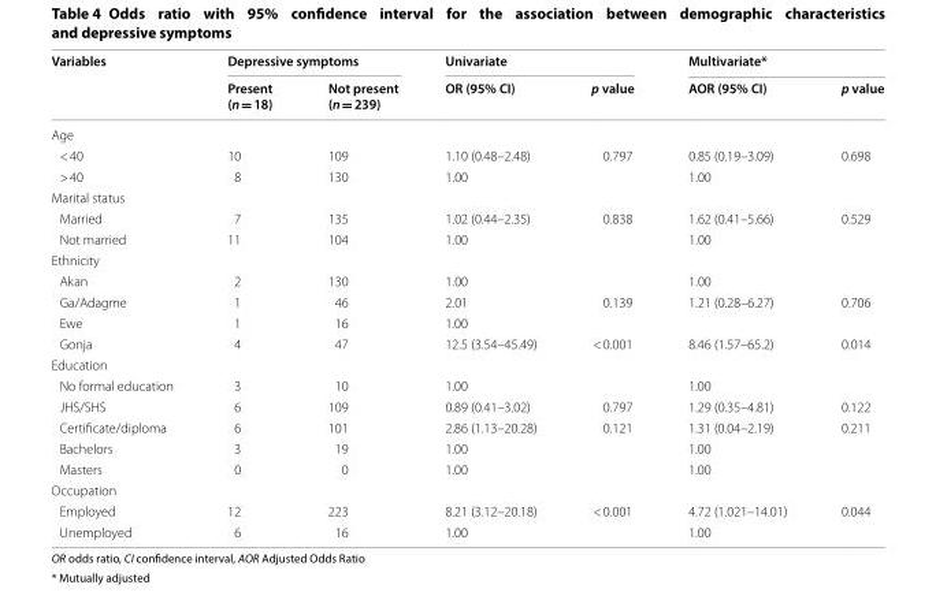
<table><thead><tr><td rowspan="2">Variables</td><td colspan="2">Depressive symptoms</td><td colspan="2">Univariate</td><td colspan="2">Multivariate*</td></tr><tr><td>Present (n = 18)</td><td>Not present (n = 239)</td><td>OR (95% CI)</td><td>p value</td><td>AOR (95% CI)</td><td>p value</td></tr></thead><tbody><tr><td colspan="7">Age</td></tr><tr><td>&lt; 40</td><td>10</td><td>109</td><td>1.10 (0.48–2.48)</td><td>0.797</td><td>0.85 (0.19–3.09)</td><td>0.698</td></tr><tr><td>&gt; 40</td><td>8</td><td>130</td><td>1.00</td><td></td><td>1.00</td><td></td></tr><tr><td colspan="7">Marital status</td></tr><tr><td>Married</td><td>7</td><td>135</td><td>1.02 (0.44–2.35)</td><td>0.838</td><td>1.62 (0.41–5.66)</td><td>0.529</td></tr><tr><td>Not married</td><td>11</td><td>104</td><td>1.00</td><td></td><td>1.00</td><td></td></tr><tr><td colspan="7">Ethnicity</td></tr><tr><td>Akan</td><td>2</td><td>130</td><td>1.00</td><td></td><td>1.00</td><td></td></tr><tr><td>Ga/Adagme</td><td>1</td><td>46</td><td>2.01</td><td>0.139</td><td>1.21 (0.28–6.27)</td><td>0.706</td></tr><tr><td>Ewe</td><td>1</td><td>16</td><td>1.00</td><td></td><td></td><td></td></tr><tr><td>Gonja</td><td>4</td><td>47</td><td>12.5 (3.54–45.49)</td><td>&lt; 0.001</td><td>8.46 (1.57–65.2)</td><td>0.014</td></tr><tr><td colspan="7">Education</td></tr><tr><td>No formal education</td><td>3</td><td>10</td><td>1.00</td><td></td><td>1.00</td><td></td></tr><tr><td>JHS/SHS</td><td>6</td><td>109</td><td>0.89 (0.41–3.02)</td><td>0.797</td><td>1.29 (0.35–4.81)</td><td>0.122</td></tr><tr><td>Certificate/diploma</td><td>6</td><td>101</td><td>2.86 (1.13–20.28)</td><td>0.121</td><td>1.31 (0.04–2.19)</td><td>0.211</td></tr><tr><td>Bachelors</td><td>3</td><td>19</td><td>1.00</td><td></td><td>1.00</td><td></td></tr><tr><td>Masters</td><td>0</td><td>0</td><td>1.00</td><td></td><td>1.00</td><td></td></tr><tr><td colspan="7">Occupation</td></tr><tr><td>Employed</td><td>12</td><td>223</td><td>8.21 (3.12–20.18)</td><td>&lt; 0.001</td><td>4.72 (1.021–14.01)</td><td>0.044</td></tr><tr><td>Unemployed</td><td>6</td><td>16</td><td>1.00</td><td></td><td>1.00</td><td></td></tr></tbody></table>